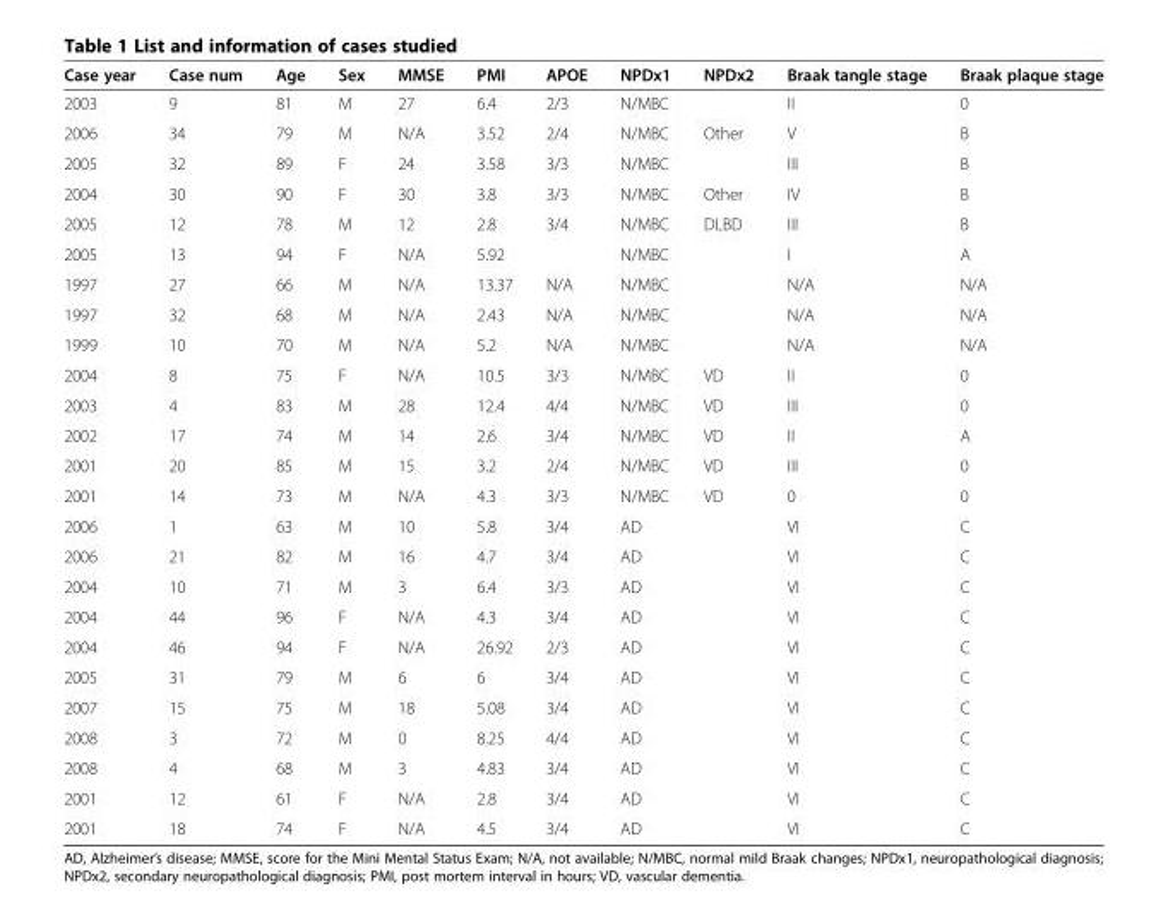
<table><thead><tr><td>Case year</td><td>Case num</td><td>Age</td><td>Sex</td><td>MMSE</td><td>PMI</td><td>APOE</td><td>NPDx1</td><td>NPDx2</td><td>Braak tangle stage</td><td>Braak plaque stage</td></tr></thead><tbody><tr><td>2003</td><td>9</td><td>81</td><td>M</td><td>27</td><td>6.4</td><td>2/3</td><td>N/MBC</td><td></td><td>II</td><td>0</td></tr><tr><td>2006</td><td>34</td><td>79</td><td>M</td><td>N/A</td><td>3.52</td><td>2/4</td><td>N/MBC</td><td>Other</td><td>V</td><td>B</td></tr><tr><td>2005</td><td>32</td><td>89</td><td>F</td><td>24</td><td>3.58</td><td>3/3</td><td>N/MBC</td><td></td><td>III</td><td>B</td></tr><tr><td>2004</td><td>30</td><td>90</td><td>F</td><td>30</td><td>3.8</td><td>3/3</td><td>N/MBC</td><td>Other</td><td>IV</td><td>B</td></tr><tr><td>2005</td><td>12</td><td>78</td><td>M</td><td>12</td><td>2.8</td><td>3/4</td><td>N/MBC</td><td>DLBD</td><td>III</td><td>B</td></tr><tr><td>2005</td><td>13</td><td>94</td><td>F</td><td>N/A</td><td>5.92</td><td></td><td>N/MBC</td><td></td><td>I</td><td>A</td></tr><tr><td>1997</td><td>27</td><td>66</td><td>M</td><td>N/A</td><td>13.37</td><td>N/A</td><td>N/MBC</td><td></td><td>N/A</td><td>N/A</td></tr><tr><td>1997</td><td>32</td><td>68</td><td>M</td><td>N/A</td><td>2.43</td><td>N/A</td><td>N/MBC</td><td></td><td>N/A</td><td>N/A</td></tr><tr><td>1999</td><td>10</td><td>70</td><td>M</td><td>N/A</td><td>5.2</td><td>N/A</td><td>N/MBC</td><td></td><td>N/A</td><td>N/A</td></tr><tr><td>2004</td><td>8</td><td>75</td><td>F</td><td>N/A</td><td>10.5</td><td>3/3</td><td>N/MBC</td><td>VD</td><td>II</td><td>0</td></tr><tr><td>2003</td><td>4</td><td>83</td><td>M</td><td>28</td><td>12.4</td><td>4/4</td><td>N/MBC</td><td>VD</td><td>III</td><td>0</td></tr><tr><td>2002</td><td>17</td><td>74</td><td>M</td><td>14</td><td>2.6</td><td>3/4</td><td>N/MBC</td><td>VD</td><td>II</td><td>A</td></tr><tr><td>2001</td><td>20</td><td>85</td><td>M</td><td>15</td><td>3.2</td><td>2/4</td><td>N/MBC</td><td>VD</td><td>III</td><td>0</td></tr><tr><td>2001</td><td>14</td><td>73</td><td>M</td><td>N/A</td><td>4.3</td><td>3/3</td><td>N/MBC</td><td>VD</td><td>0</td><td>0</td></tr><tr><td>2006</td><td>1</td><td>63</td><td>M</td><td>10</td><td>5.8</td><td>3/4</td><td>AD</td><td></td><td>VI</td><td>C</td></tr><tr><td>2006</td><td>21</td><td>82</td><td>M</td><td>16</td><td>4.7</td><td>3/4</td><td>AD</td><td></td><td>VI</td><td>C</td></tr><tr><td>2004</td><td>10</td><td>71</td><td>M</td><td>3</td><td>6.4</td><td>3/3</td><td>AD</td><td></td><td>VI</td><td>C</td></tr><tr><td>2004</td><td>44</td><td>96</td><td>F</td><td>N/A</td><td>4.3</td><td>3/4</td><td>AD</td><td></td><td>VI</td><td>C</td></tr><tr><td>2004</td><td>46</td><td>94</td><td>F</td><td>N/A</td><td>26.92</td><td>2/3</td><td>AD</td><td></td><td>VI</td><td>C</td></tr><tr><td>2005</td><td>31</td><td>79</td><td>M</td><td>6</td><td>6</td><td>3/4</td><td>AD</td><td></td><td>VI</td><td>C</td></tr><tr><td>2007</td><td>15</td><td>75</td><td>M</td><td>18</td><td>5.08</td><td>3/4</td><td>AD</td><td></td><td>VI</td><td>C</td></tr><tr><td>2008</td><td>3</td><td>72</td><td>M</td><td>0</td><td>8.25</td><td>4/4</td><td>AD</td><td></td><td>VI</td><td>C</td></tr><tr><td>2008</td><td>4</td><td>68</td><td>M</td><td>3</td><td>4.83</td><td>3/4</td><td>AD</td><td></td><td>VI</td><td>C</td></tr><tr><td>2001</td><td>12</td><td>61</td><td>F</td><td>N/A</td><td>2.8</td><td>3/4</td><td>AD</td><td></td><td>VI</td><td>C</td></tr><tr><td>2001</td><td>18</td><td>74</td><td>F</td><td>N/A</td><td>4.5</td><td>3/4</td><td>AD</td><td></td><td>VI</td><td>C</td></tr></tbody></table>